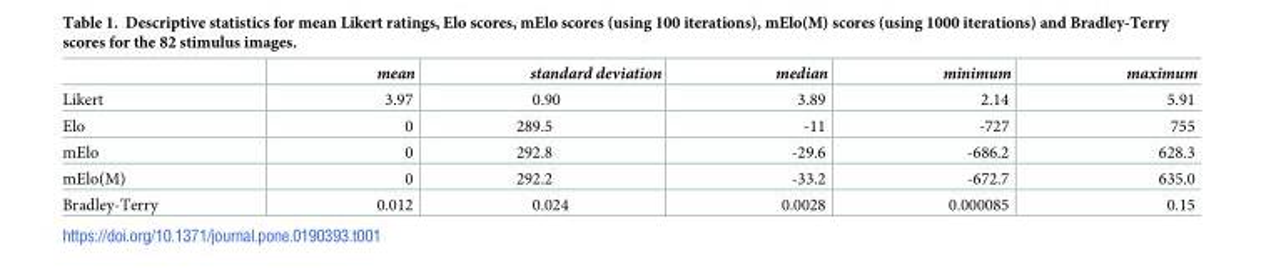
<table><thead><tr><td></td><td>mean</td><td>standard deviation</td><td>median</td><td>minimum</td><td>maximum</td></tr></thead><tbody><tr><td>Likert</td><td>3.97</td><td>0.90</td><td>3.89</td><td>2.14</td><td>5.91</td></tr><tr><td>Elo</td><td>0</td><td>289.5</td><td>-11</td><td>-727</td><td>755</td></tr><tr><td>mElo</td><td>0</td><td>292.8</td><td>-29.6</td><td>-686.2</td><td>628.3</td></tr><tr><td>mElo(M)</td><td>0</td><td>292.2</td><td>-33.2</td><td>-672.7</td><td>635.0</td></tr><tr><td>Bradley-Terry</td><td>0.012</td><td>0.024</td><td>0.0028</td><td>0.000085</td><td>0.15</td></tr></tbody></table>